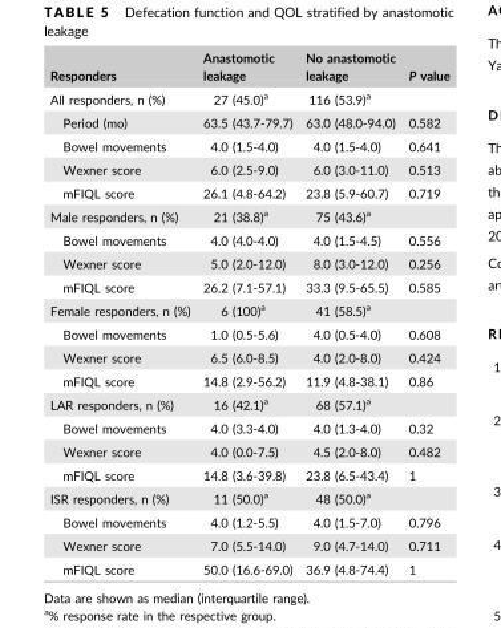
<table><thead><tr><td>Responders</td><td>Anastomotic leakage</td><td>No anastomotic leakage</td><td>P value</td></tr></thead><tbody><tr><td>All responders, n (%)</td><td>27 (45.0)<sup>a</sup></td><td>116 (53.9)<sup>a</sup></td><td></td></tr><tr><td>Period (mo)</td><td>63.5 (43.7-79.7)</td><td>63.0 (48.0-94.0)</td><td>0.582</td></tr><tr><td>Bowel movements</td><td>4.0 (1.5-4.0)</td><td>4.0 (1.5-4.0)</td><td>0.641</td></tr><tr><td>Wexner score</td><td>6.0 (2.5-9.0)</td><td>6.0 (3.0-11.0)</td><td>0.513</td></tr><tr><td>mFIQL score</td><td>26.1 (4.8-64.2)</td><td>23.8 (5.9-60.7)</td><td>0.719</td></tr><tr><td>Male responders, n (%)</td><td>21 (38.8)<sup>a</sup></td><td>75 (43.6)<sup>a</sup></td><td></td></tr><tr><td>Bowel movements</td><td>4.0 (4.0-4.0)</td><td>4.0 (1.5-4.5)</td><td>0.556</td></tr><tr><td>Wexner score</td><td>5.0 (2.0-12.0)</td><td>8.0 (3.0-12.0)</td><td>0.256</td></tr><tr><td>mFIQL score</td><td>26.2 (7.1-57.1)</td><td>33.3 (9.5-65.5)</td><td>0.585</td></tr><tr><td>Female responders, n (%)</td><td>6 (100)<sup>a</sup></td><td>41 (58.5)<sup>a</sup></td><td></td></tr><tr><td>Bowel movements</td><td>1.0 (0.5-5.6)</td><td>4.0 (0.5-4.0)</td><td>0.608</td></tr><tr><td>Wexner score</td><td>6.5 (6.0-8.5)</td><td>4.0 (2.0-8.0)</td><td>0.424</td></tr><tr><td>mFIQL score</td><td>14.8 (2.9-56.2)</td><td>11.9 (4.8-38.1)</td><td>0.86</td></tr><tr><td>LAR responders, n (%)</td><td>16 (42.1)<sup>a</sup></td><td>68 (57.1)<sup>a</sup></td><td></td></tr><tr><td>Bowel movements</td><td>4.0 (3.3-4.0)</td><td>4.0 (1.3-4.0)</td><td>0.32</td></tr><tr><td>Wexner score</td><td>4.0 (0.0-7.5)</td><td>4.5 (2.0-8.0)</td><td>0.482</td></tr><tr><td>mFIQL score</td><td>14.8 (3.6-39.8)</td><td>23.8 (6.5-43.4)</td><td>1</td></tr><tr><td>ISR responders, n (%)</td><td>11 (50.0)<sup>a</sup></td><td>48 (50.0)<sup>a</sup></td><td></td></tr><tr><td>Bowel movements</td><td>4.0 (1.2-5.5)</td><td>4.0 (1.5-7.0)</td><td>0.796</td></tr><tr><td>Wexner score</td><td>7.0 (5.5-14.0)</td><td>9.0 (4.7-14.0)</td><td>0.711</td></tr><tr><td>mFIQL score</td><td>50.0 (16.6-69.0)</td><td>36.9 (4.8-74.4)</td><td>1</td></tr></tbody></table>